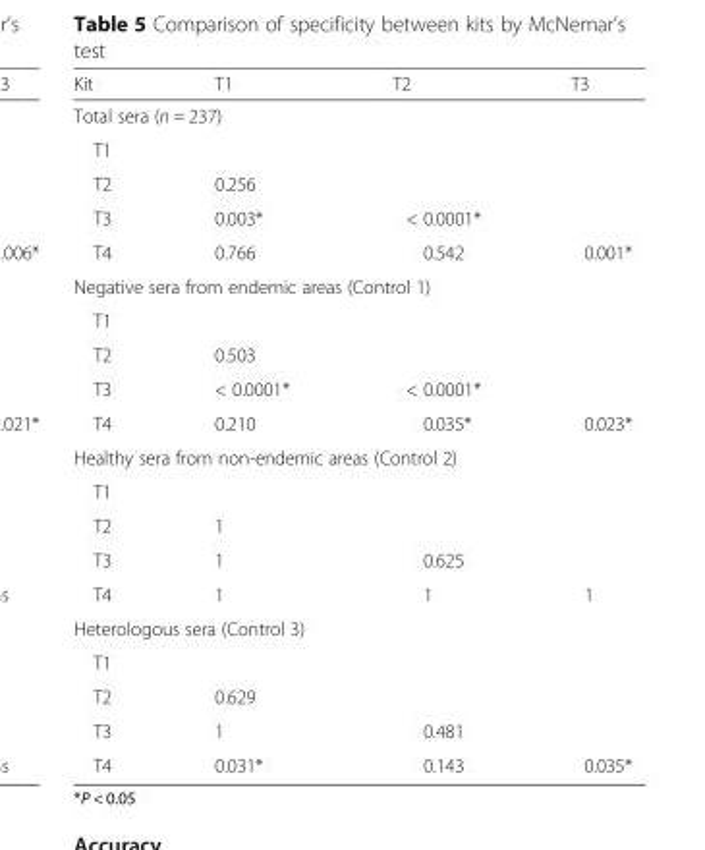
<table><thead><tr><td>Kit</td><td>T1</td><td>T2</td><td>T3</td></tr></thead><tbody><tr><td colspan="4">Total sera (n = 237)</td></tr><tr><td colspan="4">T1</td></tr><tr><td>T2</td><td>0.256</td><td></td><td></td></tr><tr><td>T3</td><td>0.003*</td><td>&lt; 0.0001*</td><td></td></tr><tr><td>T4</td><td>0.766</td><td>0.542</td><td>0.001*</td></tr><tr><td colspan="4">Negative sera from endemic areas (Control 1)</td></tr><tr><td colspan="4">T1</td></tr><tr><td>T2</td><td>0.503</td><td></td><td></td></tr><tr><td>T3</td><td>&lt; 0.0001*</td><td>&lt; 0.0001*</td><td></td></tr><tr><td>T4</td><td>0.210</td><td>0.035*</td><td>0.023*</td></tr><tr><td colspan="4">Healthy sera from non-endemic areas (Control 2)</td></tr><tr><td colspan="4">T1</td></tr><tr><td>T2</td><td>1</td><td></td><td></td></tr><tr><td>T3</td><td>1</td><td>0.625</td><td></td></tr><tr><td>T4</td><td>1</td><td>1</td><td>1</td></tr><tr><td colspan="4">Heterologous sera (Control 3)</td></tr><tr><td colspan="4">T1</td></tr><tr><td>T2</td><td>0.629</td><td></td><td></td></tr><tr><td>T3</td><td>1</td><td>0.481</td><td></td></tr><tr><td>T4</td><td>0.031*</td><td>0.143</td><td>0.035*</td></tr></tbody></table>